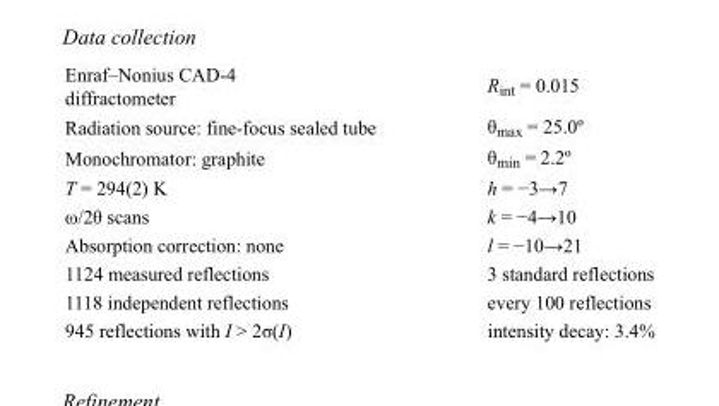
<table><tbody><tr><td>Enraf–Nonius CAD-4 diffractometer</td><td>R<sub>int</sub> = 0.015</td></tr><tr><td>Radiation source: fine-focus sealed tube</td><td>θ<sub>max</sub> = 25.0º</td></tr><tr><td>Monochromator: graphite</td><td>θ<sub>min</sub> = 2.2º</td></tr><tr><td>T = 294(2) K</td><td>h = −3→7</td></tr><tr><td>ω/2θ scans</td><td>k = −4→10</td></tr><tr><td>Absorption correction: none</td><td>l = −10→21</td></tr><tr><td>1124 measured reflections</td><td>3 standard reflections</td></tr><tr><td>1118 independent reflections</td><td>every 100 reflections</td></tr><tr><td>945 reflections with I &gt; 2σ(I)</td><td>intensity decay: 3.4%</td></tr></tbody></table>